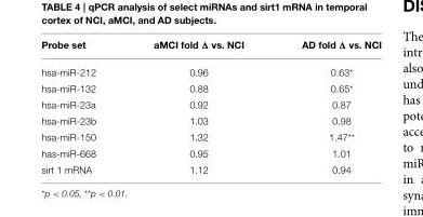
<table><thead><tr><td>Probe set</td><td>aMCI fold Δ vs. NCI</td><td>AD fold Δ vs. NCI</td></tr></thead><tbody><tr><td>hsa-miR-212</td><td>0.96</td><td>0.63*</td></tr><tr><td>hsa-miR-132</td><td>0.88</td><td>0.65*</td></tr><tr><td>hsa-miR-23a</td><td>0.92</td><td>0.87</td></tr><tr><td>hsa-miR-23b</td><td>1.03</td><td>0.98</td></tr><tr><td>hsa-miR-150</td><td>1.32</td><td>1.47**</td></tr><tr><td>has-miR-668</td><td>0.95</td><td>1.01</td></tr><tr><td>sirt 1 mRNA</td><td>1.12</td><td>0.94</td></tr></tbody></table>